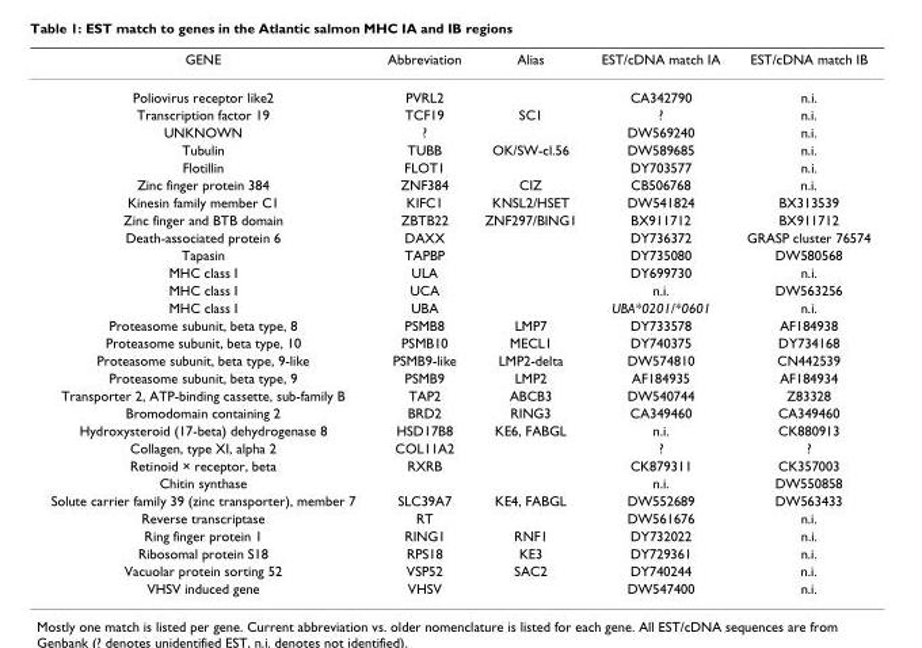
<table><thead><tr><td>GENE</td><td>Abbreviation</td><td>Alias</td><td>EST/cDNA match IA</td><td>EST/cDNA match IB</td></tr></thead><tbody><tr><td>Poliovirus receptor like2</td><td>PVRL2</td><td></td><td>CA342790</td><td>n.i.</td></tr><tr><td>Transcription factor 19</td><td>TCF19</td><td>SC1</td><td>?</td><td>n.i.</td></tr><tr><td>UNKNOWN</td><td>?</td><td></td><td>DW569240</td><td>n.i.</td></tr><tr><td>Tubulin</td><td>TUBB</td><td>OK/SW-cl.56</td><td>DW589685</td><td>n.i.</td></tr><tr><td>Flotillin</td><td>FLOT1</td><td></td><td>DY703577</td><td>n.i.</td></tr><tr><td>Zinc finger protein 384</td><td>ZNF384</td><td>CIZ</td><td>CB506768</td><td>n.i.</td></tr><tr><td>Kinesin family member C1</td><td>KIFC1</td><td>KNSL2/HSET</td><td>DW541824</td><td>BX313539</td></tr><tr><td>Zinc finger and BTB domain</td><td>ZBTB22</td><td>ZNF297/BING1</td><td>BX911712</td><td>BX911712</td></tr><tr><td>Death-associated protein 6</td><td>DAXX</td><td></td><td>DY736372</td><td>GRASP cluster 76574</td></tr><tr><td>Tapasin</td><td>TAPBP</td><td></td><td>DY735080</td><td>DW580568</td></tr><tr><td>MHC class I</td><td>ULA</td><td></td><td>DY699730</td><td>n.i.</td></tr><tr><td>MHC class I</td><td>UCA</td><td></td><td>n.i.</td><td>DW563256</td></tr><tr><td>MHC class I</td><td>UBA</td><td></td><td>UBA*0201/*0601</td><td>n.i.</td></tr><tr><td>Proteasome subunit, beta type, 8</td><td>PSMB8</td><td>LMP7</td><td>DY733578</td><td>AF184938</td></tr><tr><td>Proteasome subunit, beta type, 10</td><td>PSMB10</td><td>MECL1</td><td>DY740375</td><td>DY734168</td></tr><tr><td>Proteasome subunit, beta type, 9-like</td><td>PSMB9-like</td><td>LMP2-delta</td><td>DW574810</td><td>CN442539</td></tr><tr><td>Proteasome subunit, beta type, 9</td><td>PSMB9</td><td>LMP2</td><td>AF184935</td><td>AF184934</td></tr><tr><td>Transporter 2, ATP-binding cassette, sub-family B</td><td>TAP2</td><td>ABCB3</td><td>DW540744</td><td>Z83328</td></tr><tr><td>Bromodomain containing 2</td><td>BRD2</td><td>RING3</td><td>CA349460</td><td>CA349460</td></tr><tr><td>Hydroxysteroid (17-beta) dehydrogenase 8</td><td>HSD17B8</td><td>KE6, FABGL</td><td>n.i.</td><td>CK880913</td></tr><tr><td>Collagen, type XI, alpha 2</td><td>COL11A2</td><td></td><td>?</td><td>?</td></tr><tr><td>Retinoid × receptor, beta</td><td>RXRB</td><td></td><td>CK879311</td><td>CK357003</td></tr><tr><td>Chitin synthase</td><td></td><td></td><td>n.i.</td><td>DW550858</td></tr><tr><td>Solute carrier family 39 (zinc transporter), member 7</td><td>SLC39A7</td><td>KE4, FABGL</td><td>DW552689</td><td>DW563433</td></tr><tr><td>Reverse transcriptase</td><td>RT</td><td></td><td>DW561676</td><td>n.i.</td></tr><tr><td>Ring finger protein 1</td><td>RING1</td><td>RNF1</td><td>DY732022</td><td>n.i.</td></tr><tr><td>Ribosomal protein S18</td><td>RPS18</td><td>KE3</td><td>DY729361</td><td>n.i.</td></tr><tr><td>Vacuolar protein sorting 52</td><td>VSP52</td><td>SAC2</td><td>DY740244</td><td>n.i.</td></tr><tr><td>VHSV induced gene</td><td>VHSV</td><td></td><td>DW547400</td><td>n.i.</td></tr></tbody></table>